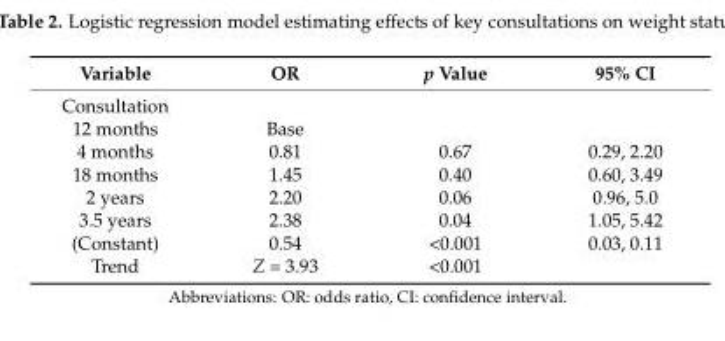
<table><thead><tr><td>Variable</td><td>OR</td><td>p Value</td><td>95% CI</td></tr></thead><tbody><tr><td colspan="4">Consultation</td></tr><tr><td>12 months</td><td>Base</td><td></td><td></td></tr><tr><td>4 months</td><td>0.81</td><td>0.67</td><td>0.29, 2.20</td></tr><tr><td>18 months</td><td>1.45</td><td>0.40</td><td>0.60, 3.49</td></tr><tr><td>2 years</td><td>2.20</td><td>0.06</td><td>0.96, 5.0</td></tr><tr><td>3.5 years</td><td>2.38</td><td>0.04</td><td>1.05, 5.42</td></tr><tr><td>(Constant)</td><td>0.54</td><td>&lt;0.001</td><td>0.03, 0.11</td></tr><tr><td>Trend</td><td>Z = 3.93</td><td>&lt;0.001</td><td></td></tr></tbody></table>